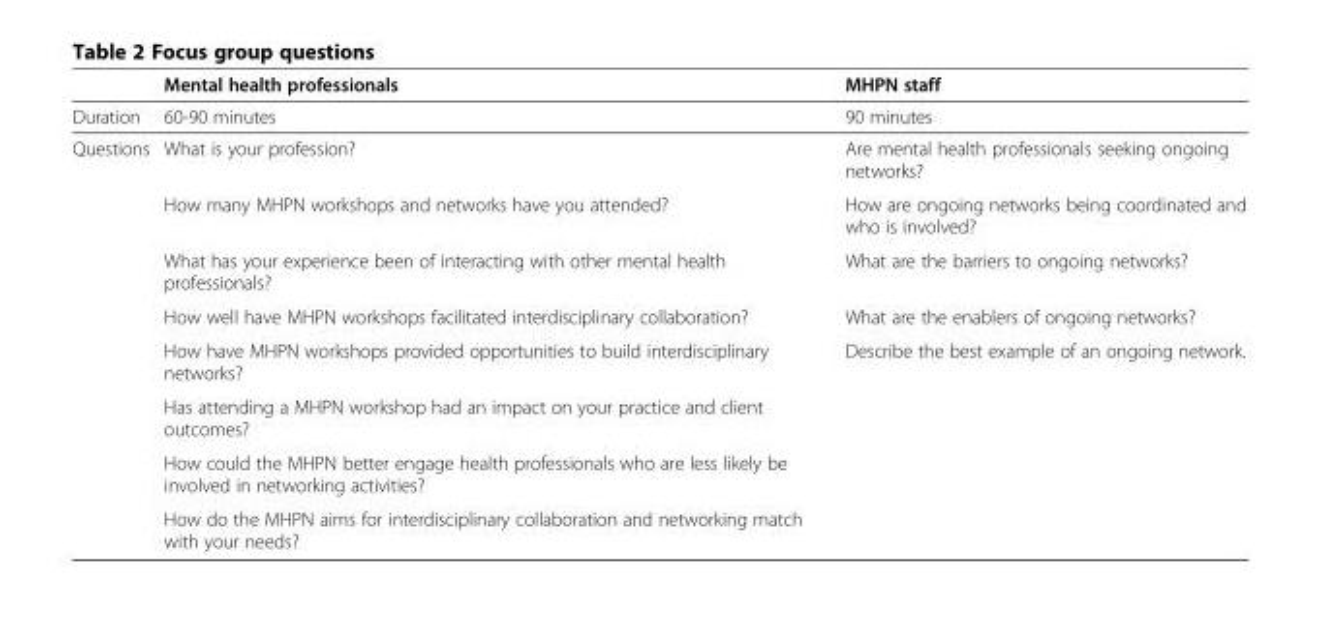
<table><thead><tr><td rowspan="2">Duration</td><td rowspan="2">Mental health professionals 60-90 minutes</td><td rowspan="2">MHPN staff 90 minutes</td></tr><tr></tr></thead><tbody><tr><td rowspan="8">Questions</td><td>What is your profession?</td><td>Are mental health professionals seeking ongoing networks?</td></tr><tr><td>How many MHPN workshops and networks have you attended?</td><td>How are ongoing networks being coordinated and who is involved?</td></tr><tr><td>What has your experience been of interacting with other mental health professionals?</td><td>What are the barriers to ongoing networks?</td></tr><tr><td>How well have MHPN workshops facilitated interdisciplinary collaboration?</td><td>What are the enablers of ongoing networks?</td></tr><tr><td>How have MHPN workshops provided opportunities to build interdisciplinary networks?</td><td>Describe the best example of an ongoing network.</td></tr><tr><td>Has attending a MHPN workshop had an impact on your practice and client outcomes?</td><td></td></tr><tr><td>How could the MHPN better engage health professionals who are less likely be involved in networking activities?</td><td></td></tr><tr><td>How do the MHPN aims for interdisciplinary collaboration and networking match with your needs?</td><td></td></tr></tbody></table>